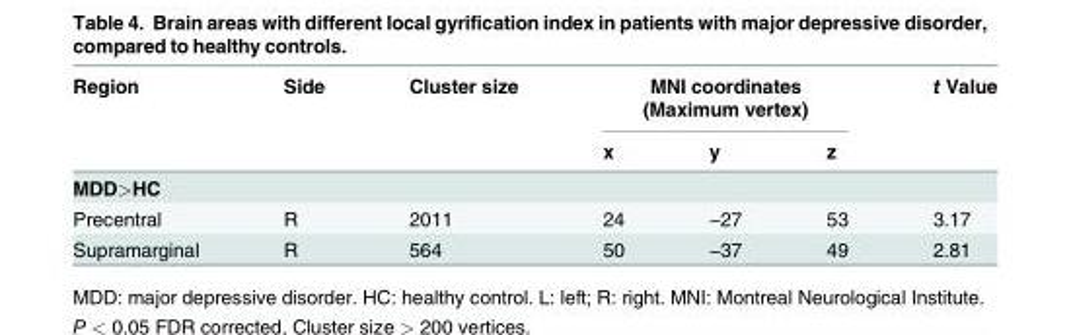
<table><thead><tr><td rowspan="2">Region</td><td rowspan="2">Side</td><td rowspan="2">Cluster size</td><td colspan="3">MNI coordinates (Maximum vertex)</td><td rowspan="2">t Value</td></tr><tr><td>x</td><td>y</td><td>z</td></tr></thead><tbody><tr><td colspan="7">MDD&gt;HC</td></tr><tr><td>Precentral</td><td>R</td><td>2011</td><td>24</td><td>−27</td><td>53</td><td>3.17</td></tr><tr><td>Supramarginal</td><td>R</td><td>564</td><td>50</td><td>−37</td><td>49</td><td>2.81</td></tr></tbody></table>